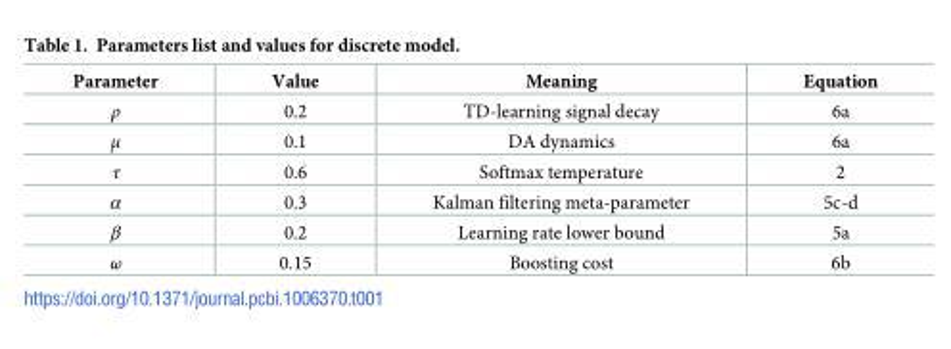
<table><thead><tr><td>Parameter</td><td>Value</td><td>Meaning</td><td>Equation</td></tr></thead><tbody><tr><td>ρ</td><td>0.2</td><td>TD-learning signal decay</td><td>6a</td></tr><tr><td>μ</td><td>0.1</td><td>DA dynamics</td><td>6a</td></tr><tr><td>τ</td><td>0.6</td><td>Softmax temperature</td><td>2</td></tr><tr><td>α</td><td>0.3</td><td>Kalman filtering meta-parameter</td><td>5c-d</td></tr><tr><td>β</td><td>0.2</td><td>Learning rate lower bound</td><td>5a</td></tr><tr><td>ω</td><td>0.15</td><td>Boosting cost</td><td>6b</td></tr></tbody></table>